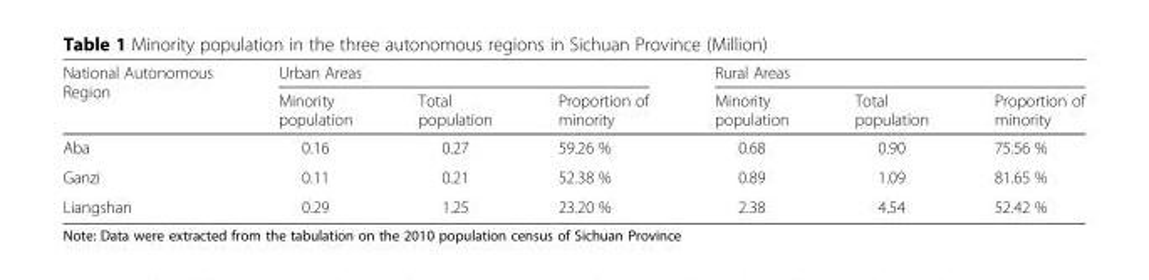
<table><thead><tr><td rowspan="2">National Autonomous Region</td><td colspan="3">Urban Areas</td><td colspan="3">Rural Areas</td></tr><tr><td>Minority population</td><td>Total population</td><td>Proportion of minority</td><td>Minority population</td><td>Total population</td><td>Proportion of minority</td></tr></thead><tbody><tr><td>Aba</td><td>0.16</td><td>0.27</td><td>59.26 %</td><td>0.68</td><td>0.90</td><td>75.56 %</td></tr><tr><td>Ganzi</td><td>0.11</td><td>0.21</td><td>52.38 %</td><td>0.89</td><td>1.09</td><td>81.65 %</td></tr><tr><td>Liangshan</td><td>0.29</td><td>1.25</td><td>23.20 %</td><td>2.38</td><td>4.54</td><td>52.42 %</td></tr></tbody></table>